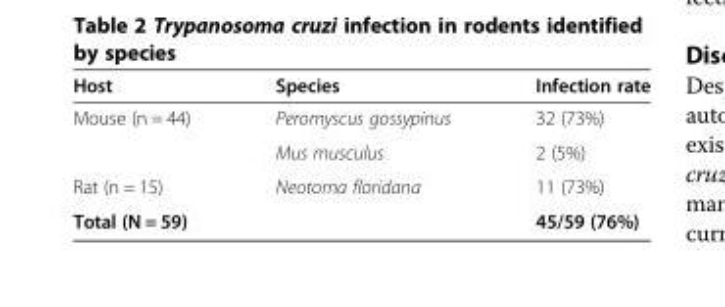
<table><thead><tr><td>Host</td><td>Species</td><td>Infection rate</td></tr></thead><tbody><tr><td rowspan="2">Mouse (n = 44)</td><td>Peromyscus gossypinus</td><td>32 (73%)</td></tr><tr><td>Mus musculus</td><td>2 (5%)</td></tr><tr><td>Rat (n = 15)</td><td>Neotoma floridana</td><td>11 (73%)</td></tr><tr><td>Total (N = 59)</td><td></td><td>45/59 (76%)</td></tr></tbody></table>